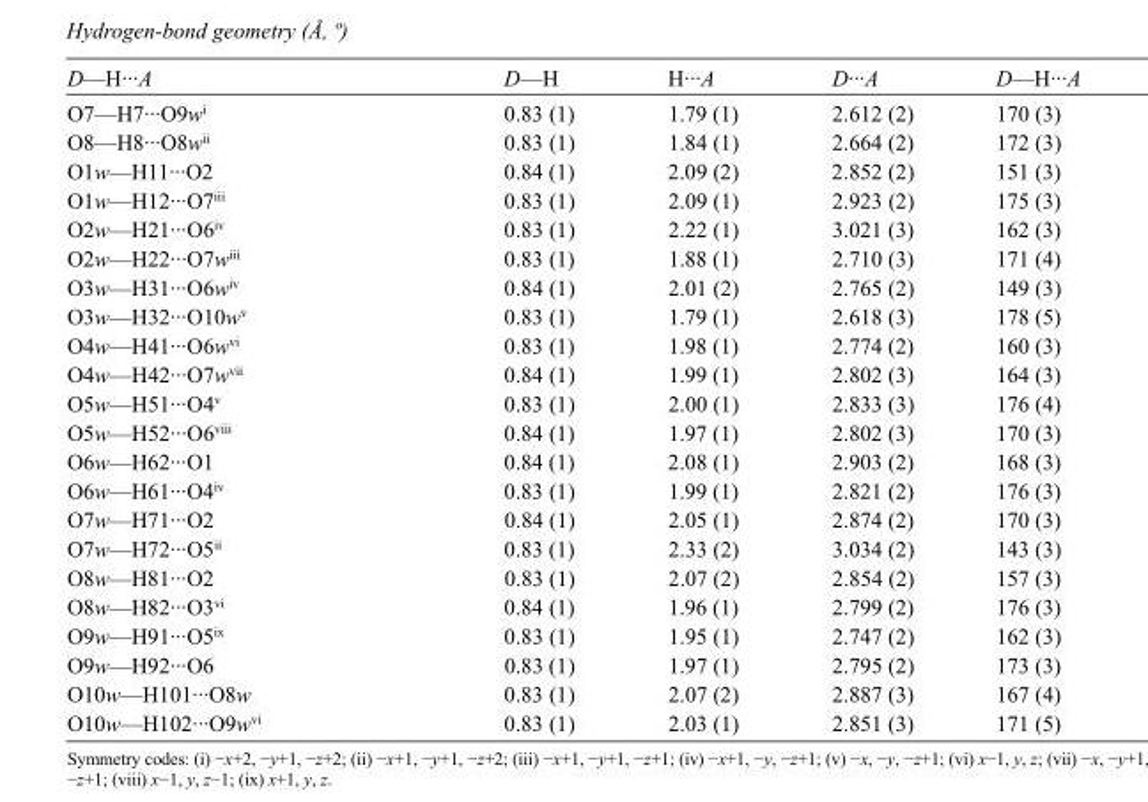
<table><tbody><tr><td>D—H···A</td><td>D—H</td><td>H···A</td><td>D···A</td><td>D—H···A</td></tr><tr><td>O7—H7···O9w<sup>i</sup></td><td>0.83 (1)</td><td>1.79 (1)</td><td>2.612 (2)</td><td>170 (3)</td></tr><tr><td>O8—H8···O8w<sup>ii</sup></td><td>0.83 (1)</td><td>1.84 (1)</td><td>2.664 (2)</td><td>172 (3)</td></tr><tr><td>O1w—H11···O2</td><td>0.84 (1)</td><td>2.09 (2)</td><td>2.852 (2)</td><td>151 (3)</td></tr><tr><td>O1w—H12···O7<sup>iii</sup></td><td>0.83 (1)</td><td>2.09 (1)</td><td>2.923 (2)</td><td>175 (3)</td></tr><tr><td>O2w—H21···O6<sup>iv</sup></td><td>0.83 (1)</td><td>2.22 (1)</td><td>3.021 (3)</td><td>162 (3)</td></tr><tr><td>O2w—H22···O7w<sup>iii</sup></td><td>0.83 (1)</td><td>1.88 (1)</td><td>2.710 (3)</td><td>171 (4)</td></tr><tr><td>O3w—H31···O6w<sup>iv</sup></td><td>0.84 (1)</td><td>2.01 (2)</td><td>2.765 (2)</td><td>149 (3)</td></tr><tr><td>O3w—H32···O10w<sup>v</sup></td><td>0.83 (1)</td><td>1.79 (1)</td><td>2.618 (3)</td><td>178 (5)</td></tr><tr><td>O4w—H41···O6w<sup>vi</sup></td><td>0.83 (1)</td><td>1.98 (1)</td><td>2.774 (2)</td><td>160 (3)</td></tr><tr><td>O4w—H42···O7w<sup>vii</sup></td><td>0.84 (1)</td><td>1.99 (1)</td><td>2.802 (3)</td><td>164 (3)</td></tr><tr><td>O5w—H51···O4<sup>v</sup></td><td>0.83 (1)</td><td>2.00 (1)</td><td>2.833 (3)</td><td>176 (4)</td></tr><tr><td>O5w—H52···O6<sup>viii</sup></td><td>0.84 (1)</td><td>1.97 (1)</td><td>2.802 (3)</td><td>170 (3)</td></tr><tr><td>O6w—H62···O1</td><td>0.84 (1)</td><td>2.08 (1)</td><td>2.903 (2)</td><td>168 (3)</td></tr><tr><td>O6w—H61···O4<sup>iv</sup></td><td>0.83 (1)</td><td>1.99 (1)</td><td>2.821 (2)</td><td>176 (3)</td></tr><tr><td>O7w—H71···O2</td><td>0.84 (1)</td><td>2.05 (1)</td><td>2.874 (2)</td><td>170 (3)</td></tr><tr><td>O7w—H72···O5<sup>ii</sup></td><td>0.83 (1)</td><td>2.33 (2)</td><td>3.034 (2)</td><td>143 (3)</td></tr><tr><td>O8w—H81···O2</td><td>0.83 (1)</td><td>2.07 (2)</td><td>2.854 (2)</td><td>157 (3)</td></tr><tr><td>O8w—H82···O3<sup>vi</sup></td><td>0.84 (1)</td><td>1.96 (1)</td><td>2.799 (2)</td><td>176 (3)</td></tr><tr><td>O9w—H91···O5<sup>ix</sup></td><td>0.83 (1)</td><td>1.95 (1)</td><td>2.747 (2)</td><td>162 (3)</td></tr><tr><td>O9w—H92···O6</td><td>0.83 (1)</td><td>1.97 (1)</td><td>2.795 (2)</td><td>173 (3)</td></tr><tr><td>O10w—H101···O8w</td><td>0.83 (1)</td><td>2.07 (2)</td><td>2.887 (3)</td><td>167 (4)</td></tr><tr><td>O10w—H102···O9w<sup>vi</sup></td><td>0.83 (1)</td><td>2.03 (1)</td><td>2.851 (3)</td><td>171 (5)</td></tr></tbody></table>